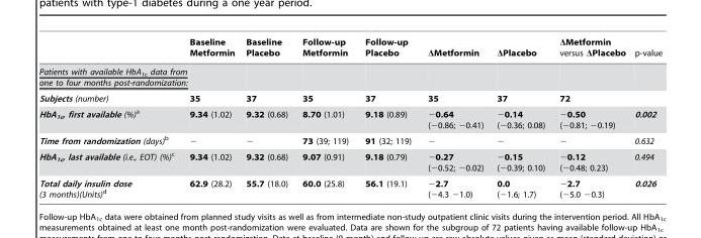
<table><thead><tr><td></td><td>Baseline Metformin</td><td>Baseline Placebo</td><td>Follow-up Metformin</td><td>Follow-up Placebo</td><td>ΔMetformin</td><td>ΔPlacebo</td><td>ΔMetformin versus ΔPlacebo</td><td>p-value</td></tr></thead><tbody><tr><td colspan="9">Patients with available HbA<sub>1c</sub> data from one to four months post-randomization:</td></tr><tr><td>Subjects (number)</td><td>35</td><td>37</td><td>35</td><td>37</td><td>35</td><td>37</td><td>72</td><td></td></tr><tr><td>HbA<sub>1c</sub>, first available (%)a</td><td>9.34 (1.02)</td><td>9.32 (0.68)</td><td>8.70 (1.01)</td><td>9.18 (0.89)</td><td>−0.64 (−0.86; −0.41)</td><td>−0.14 (−0.36; 0.08)</td><td>−0.50 (−0.81; −0.19)</td><td>0.002</td></tr><tr><td>Time from randomization (days)b</td><td>−</td><td>−</td><td>73 (39; 119)</td><td>91 (32; 119)</td><td>−</td><td>−</td><td>−</td><td>0.632</td></tr><tr><td>HbA<sub>1c</sub>, last available (i.e., EOT) (%)c</td><td>9.34 (1.02)</td><td>9.32 (0.68)</td><td>9.07 (0.91)</td><td>9.18 (0.79)</td><td>−0.27 (−0.52; −0.02)</td><td>−0.15 (−0.39; 0.10)</td><td>−0.12 (−0.48; 0.23)</td><td>0.494</td></tr><tr><td>Total daily insulin dose (3 months)(Units)d</td><td>62.9 (28.2)</td><td>55.7 (18.0)</td><td>60.0 (25.8)</td><td>56.1 (19.1)</td><td>−2.7 (−4.3 −1.0)</td><td>0.0 (−1.6; 1.7)</td><td>−2.7 (−5.0 −0.3)</td><td>0.026</td></tr></tbody></table>